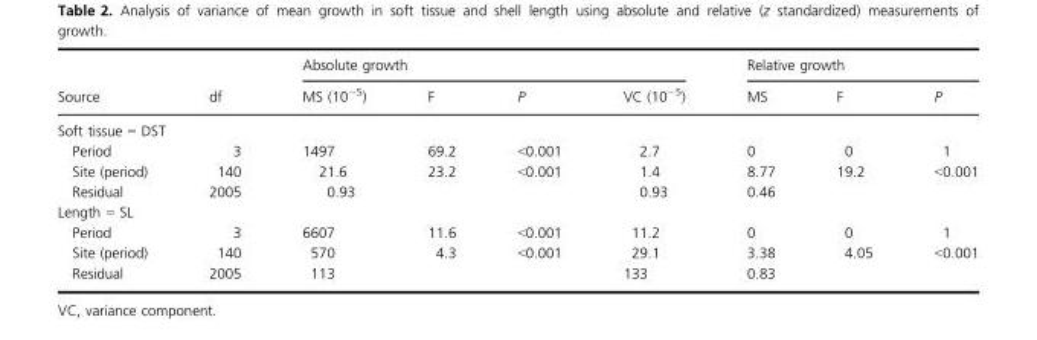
<table><thead><tr><td rowspan="2">Source</td><td rowspan="2">df</td><td colspan="4">Absolute growth</td><td colspan="3">Relative growth</td></tr><tr><td>MS (10<sup>−5</sup>)</td><td>F</td><td>P</td><td>VC (10<sup>−5</sup>)</td><td>MS</td><td>F</td><td>P</td></tr></thead><tbody><tr><td colspan="9">Soft tissue = DST</td></tr><tr><td>Period</td><td>3</td><td>1497</td><td>69.2</td><td>&lt;0.001</td><td>2.7</td><td>0</td><td>0</td><td>1</td></tr><tr><td>Site (period)</td><td>140</td><td>21.6</td><td>23.2</td><td>&lt;0.001</td><td>1.4</td><td>8.77</td><td>19.2</td><td>&lt;0.001</td></tr><tr><td>Residual</td><td>2005</td><td>0.93</td><td></td><td></td><td>0.93</td><td>0.46</td><td></td><td></td></tr><tr><td colspan="9">Length = SL</td></tr><tr><td>Period</td><td>3</td><td>6607</td><td>11.6</td><td>&lt;0.001</td><td>11.2</td><td>0</td><td>0</td><td>1</td></tr><tr><td>Site (period)</td><td>140</td><td>570</td><td>4.3</td><td>&lt;0.001</td><td>29.1</td><td>3.38</td><td>4.05</td><td>&lt;0.001</td></tr><tr><td>Residual</td><td>2005</td><td>113</td><td></td><td></td><td>133</td><td>0.83</td><td></td><td></td></tr></tbody></table>